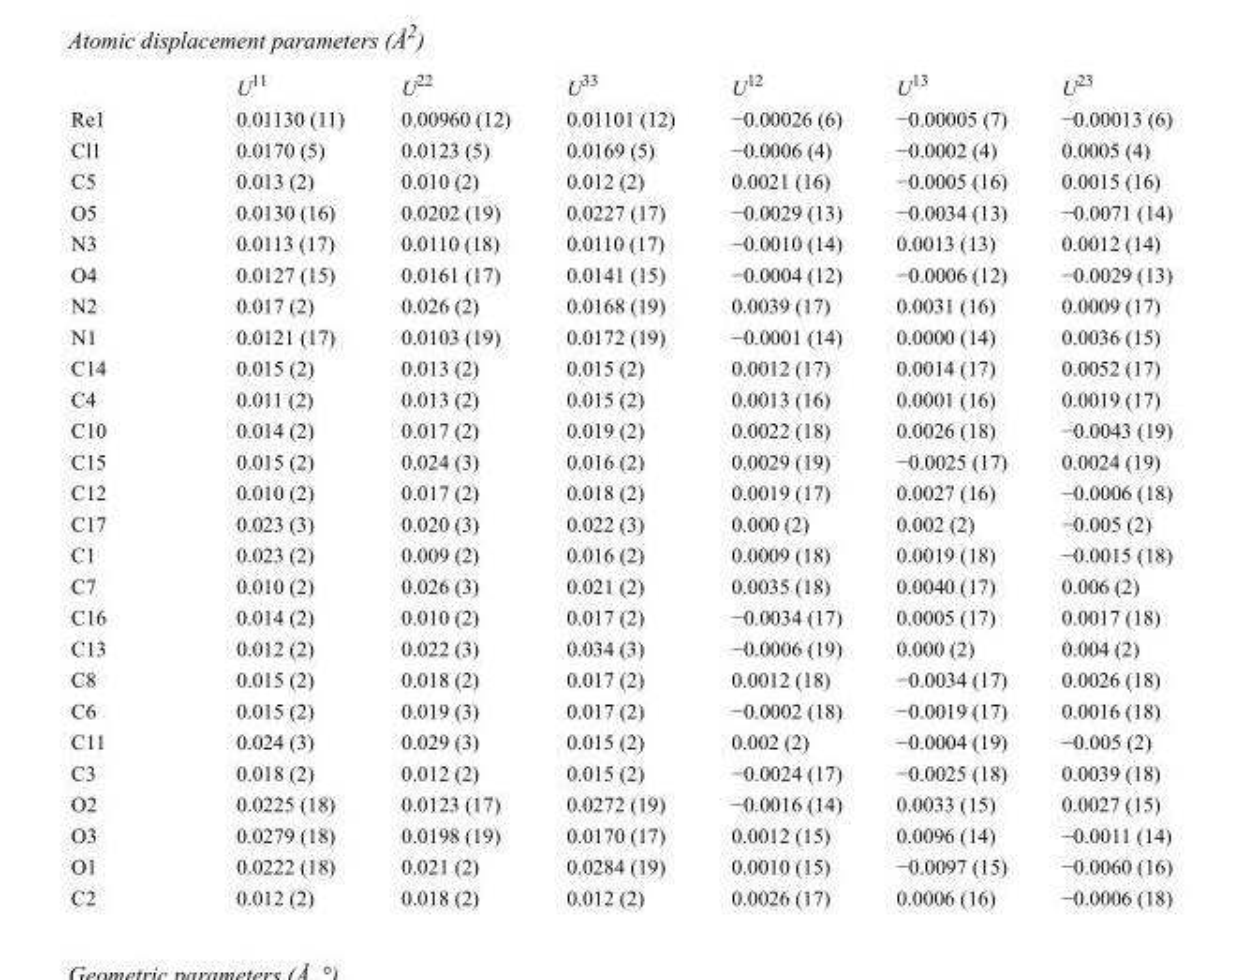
<table><thead><tr><td></td><td>U<sup>11</sup></td><td>U<sup>22</sup></td><td>U<sup>33</sup></td><td>U<sup>12</sup></td><td>U<sup>13</sup></td><td>U<sup>23</sup></td></tr></thead><tbody><tr><td>Re1</td><td>0.01130 (11)</td><td>0.00960 (12)</td><td>0.01101 (12)</td><td>−0.00026 (6)</td><td>−0.00005 (7)</td><td>−0.00013 (6)</td></tr><tr><td>Cl1</td><td>0.0170 (5)</td><td>0.0123 (5)</td><td>0.0169 (5)</td><td>−0.0006 (4)</td><td>−0.0002 (4)</td><td>0.0005 (4)</td></tr><tr><td>C5</td><td>0.013 (2)</td><td>0.010 (2)</td><td>0.012 (2)</td><td>0.0021 (16)</td><td>−0.0005 (16)</td><td>0.0015 (16)</td></tr><tr><td>O5</td><td>0.0130 (16)</td><td>0.0202 (19)</td><td>0.0227 (17)</td><td>−0.0029 (13)</td><td>−0.0034 (13)</td><td>−0.0071 (14)</td></tr><tr><td>N3</td><td>0.0113 (17)</td><td>0.0110 (18)</td><td>0.0110 (17)</td><td>−0.0010 (14)</td><td>0.0013 (13)</td><td>0.0012 (14)</td></tr><tr><td>O4</td><td>0.0127 (15)</td><td>0.0161 (17)</td><td>0.0141 (15)</td><td>−0.0004 (12)</td><td>−0.0006 (12)</td><td>−0.0029 (13)</td></tr><tr><td>N2</td><td>0.017 (2)</td><td>0.026 (2)</td><td>0.0168 (19)</td><td>0.0039 (17)</td><td>0.0031 (16)</td><td>0.0009 (17)</td></tr><tr><td>N1</td><td>0.0121 (17)</td><td>0.0103 (19)</td><td>0.0172 (19)</td><td>−0.0001 (14)</td><td>0.0000 (14)</td><td>0.0036 (15)</td></tr><tr><td>C14</td><td>0.015 (2)</td><td>0.013 (2)</td><td>0.015 (2)</td><td>0.0012 (17)</td><td>0.0014 (17)</td><td>0.0052 (17)</td></tr><tr><td>C4</td><td>0.011 (2)</td><td>0.013 (2)</td><td>0.015 (2)</td><td>0.0013 (16)</td><td>0.0001 (16)</td><td>0.0019 (17)</td></tr><tr><td>C10</td><td>0.014 (2)</td><td>0.017 (2)</td><td>0.019 (2)</td><td>0.0022 (18)</td><td>0.0026 (18)</td><td>−0.0043 (19)</td></tr><tr><td>C15</td><td>0.015 (2)</td><td>0.024 (3)</td><td>0.016 (2)</td><td>0.0029 (19)</td><td>−0.0025 (17)</td><td>0.0024 (19)</td></tr><tr><td>C12</td><td>0.010 (2)</td><td>0.017 (2)</td><td>0.018 (2)</td><td>0.0019 (17)</td><td>0.0027 (16)</td><td>−0.0006 (18)</td></tr><tr><td>C17</td><td>0.023 (3)</td><td>0.020 (3)</td><td>0.022 (3)</td><td>0.000 (2)</td><td>0.002 (2)</td><td>−0.005 (2)</td></tr><tr><td>C1</td><td>0.023 (2)</td><td>0.009 (2)</td><td>0.016 (2)</td><td>0.0009 (18)</td><td>0.0019 (18)</td><td>−0.0015 (18)</td></tr><tr><td>C7</td><td>0.010 (2)</td><td>0.026 (3)</td><td>0.021 (2)</td><td>0.0035 (18)</td><td>0.0040 (17)</td><td>0.006 (2)</td></tr><tr><td>C16</td><td>0.014 (2)</td><td>0.010 (2)</td><td>0.017 (2)</td><td>−0.0034 (17)</td><td>0.0005 (17)</td><td>0.0017 (18)</td></tr><tr><td>C13</td><td>0.012 (2)</td><td>0.022 (3)</td><td>0.034 (3)</td><td>−0.0006 (19)</td><td>0.000 (2)</td><td>0.004 (2)</td></tr><tr><td>C8</td><td>0.015 (2)</td><td>0.018 (2)</td><td>0.017 (2)</td><td>0.0012 (18)</td><td>−0.0034 (17)</td><td>0.0026 (18)</td></tr><tr><td>C6</td><td>0.015 (2)</td><td>0.019 (3)</td><td>0.017 (2)</td><td>−0.0002 (18)</td><td>−0.0019 (17)</td><td>0.0016 (18)</td></tr><tr><td>C11</td><td>0.024 (3)</td><td>0.029 (3)</td><td>0.015 (2)</td><td>0.002 (2)</td><td>−0.0004 (19)</td><td>−0.005 (2)</td></tr><tr><td>C3</td><td>0.018 (2)</td><td>0.012 (2)</td><td>0.015 (2)</td><td>−0.0024 (17)</td><td>−0.0025 (18)</td><td>0.0039 (18)</td></tr><tr><td>O2</td><td>0.0225 (18)</td><td>0.0123 (17)</td><td>0.0272 (19)</td><td>−0.0016 (14)</td><td>0.0033 (15)</td><td>0.0027 (15)</td></tr><tr><td>O3</td><td>0.0279 (18)</td><td>0.0198 (19)</td><td>0.0170 (17)</td><td>0.0012 (15)</td><td>0.0096 (14)</td><td>−0.0011 (14)</td></tr><tr><td>O1</td><td>0.0222 (18)</td><td>0.021 (2)</td><td>0.0284 (19)</td><td>0.0010 (15)</td><td>−0.0097 (15)</td><td>−0.0060 (16)</td></tr><tr><td>C2</td><td>0.012 (2)</td><td>0.018 (2)</td><td>0.012 (2)</td><td>0.0026 (17)</td><td>0.0006 (16)</td><td>−0.0006 (18)</td></tr></tbody></table>